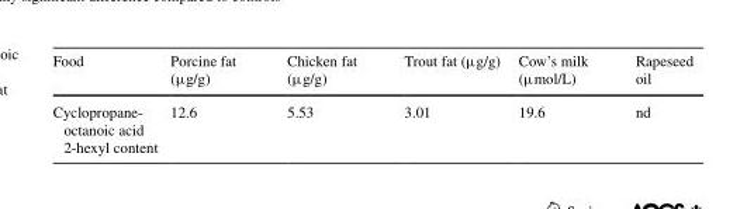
<table><thead><tr><td>Food</td><td>Porcine fat (μg/g)</td><td>Chicken fat (μg/g)</td><td>Trout fat (μg/g)</td><td>Cow’s milk (μmol/L)</td><td>Rapeseed oil</td></tr></thead><tbody><tr><td>Cyclopropane- octanoic acid 2-hexyl content</td><td>12.6</td><td>5.53</td><td>3.01</td><td>19.6</td><td>nd</td></tr></tbody></table>